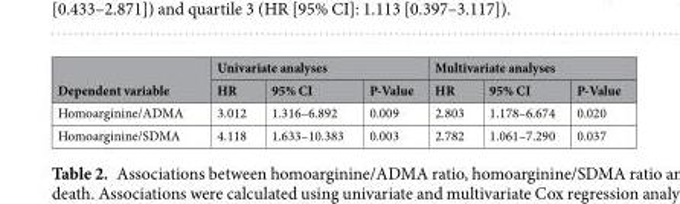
<table><thead><tr><td rowspan="2">Dependent variable</td><td colspan="3">Univariate analyses</td><td colspan="3">Multivariate analyses</td></tr><tr><td>HR</td><td>95% CI</td><td>P-Value</td><td>HR</td><td>95% CI</td><td>P-Value</td></tr></thead><tbody><tr><td>Homoarginine/ADMA</td><td>3.012</td><td>1.316–6.892</td><td>0.009</td><td>2.803</td><td>1.178–6.674</td><td>0.020</td></tr><tr><td>Homoarginine/SDMA</td><td>4.118</td><td>1.633–10.383</td><td>0.003</td><td>2.782</td><td>1.061–7.290</td><td>0.037</td></tr></tbody></table>